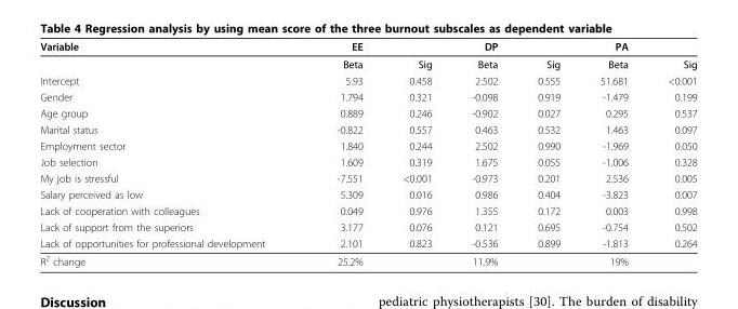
<table><thead><tr><td>Variable</td><td>EE</td><td></td><td>DP</td><td></td><td>PA</td><td></td></tr></thead><tbody><tr><td></td><td>Beta</td><td>Sig</td><td>Beta</td><td>Sig</td><td>Beta</td><td>Sig</td></tr><tr><td>Intercept</td><td>5.93</td><td>0.458</td><td>2.502</td><td>0.555</td><td>51.681</td><td>&lt;0.001</td></tr><tr><td>Gender</td><td>1.794</td><td>0.321</td><td>-0.098</td><td>0.919</td><td>-1.479</td><td>0.199</td></tr><tr><td>Age group</td><td>0.889</td><td>0.246</td><td>-0.902</td><td>0.027</td><td>0.295</td><td>0.537</td></tr><tr><td>Marital status</td><td>-0.822</td><td>0.557</td><td>0.463</td><td>0.532</td><td>1.463</td><td>0.097</td></tr><tr><td>Employment sector</td><td>1.840</td><td>0.244</td><td>2.502</td><td>0.990</td><td>-1.969</td><td>0.050</td></tr><tr><td>Job selection</td><td>1.609</td><td>0.319</td><td>1.675</td><td>0.055</td><td>-1.006</td><td>0.328</td></tr><tr><td>My job is stressful</td><td>-7.551</td><td>&lt;0.001</td><td>-0.973</td><td>0.201</td><td>2.536</td><td>0.005</td></tr><tr><td>Salary perceived as low</td><td>5.309</td><td>0.016</td><td>0.986</td><td>0.404</td><td>-3.823</td><td>0.007</td></tr><tr><td>Lack of cooperation with colleagues</td><td>0.049</td><td>0.976</td><td>1.355</td><td>0.172</td><td>0.003</td><td>0.998</td></tr><tr><td>Lack of support from the superiors</td><td>3.177</td><td>0.076</td><td>0.121</td><td>0.695</td><td>-0.754</td><td>0.502</td></tr><tr><td>Lack of opportunities for professional development</td><td>2.101</td><td>0.823</td><td>-0.536</td><td>0.899</td><td>-1.813</td><td>0.264</td></tr><tr><td>R<sup>2</sup> change</td><td>25.2%</td><td></td><td>11.9%</td><td></td><td>19%</td><td></td></tr></tbody></table>